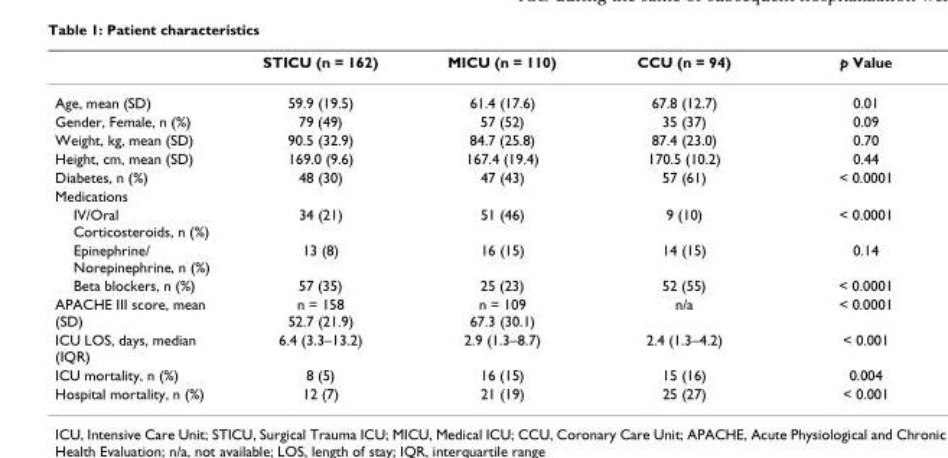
<table><thead><tr><td></td><td>STICU (n = 162)</td><td>MICU (n = 110)</td><td>CCU (n = 94)</td><td>p Value</td></tr></thead><tbody><tr><td>Age, mean (SD)</td><td>59.9 (19.5)</td><td>61.4 (17.6)</td><td>67.8 (12.7)</td><td>0.01</td></tr><tr><td>Gender, Female, n (%)</td><td>79 (49)</td><td>57 (52)</td><td>35 (37)</td><td>0.09</td></tr><tr><td>Weight, kg, mean (SD)</td><td>90.5 (32.9)</td><td>84.7 (25.8)</td><td>87.4 (23.0)</td><td>0.70</td></tr><tr><td>Height, cm, mean (SD)</td><td>169.0 (9.6)</td><td>167.4 (19.4)</td><td>170.5 (10.2)</td><td>0.44</td></tr><tr><td>Diabetes, n (%)</td><td>48 (30)</td><td>47 (43)</td><td>57 (61)</td><td>&lt; 0.0001</td></tr><tr><td colspan="5">Medications</td></tr><tr><td>IV/Oral Corticosteroids, n (%)</td><td>34 (21)</td><td>51 (46)</td><td>9 (10)</td><td>&lt; 0.0001</td></tr><tr><td>Epinephrine/ Norepinephrine, n (%)</td><td>13 (8)</td><td>16 (15)</td><td>14 (15)</td><td>0.14</td></tr><tr><td>Beta blockers, n (%)</td><td>57 (35)</td><td>25 (23)</td><td>52 (55)</td><td>&lt; 0.0001</td></tr><tr><td>APACHE III score, mean (SD)</td><td>n = 158 52.7 (21.9)</td><td>n = 109 67.3 (30.1)</td><td>n/a</td><td>&lt; 0.0001</td></tr><tr><td>ICU LOS, days, median (IQR)</td><td>6.4 (3.3–13.2)</td><td>2.9 (1.3–8.7)</td><td>2.4 (1.3–4.2)</td><td>&lt; 0.001</td></tr><tr><td>ICU mortality, n (%)</td><td>8 (5)</td><td>16 (15)</td><td>15 (16)</td><td>0.004</td></tr><tr><td>Hospital mortality, n (%)</td><td>12 (7)</td><td>21 (19)</td><td>25 (27)</td><td>&lt; 0.001</td></tr></tbody></table>